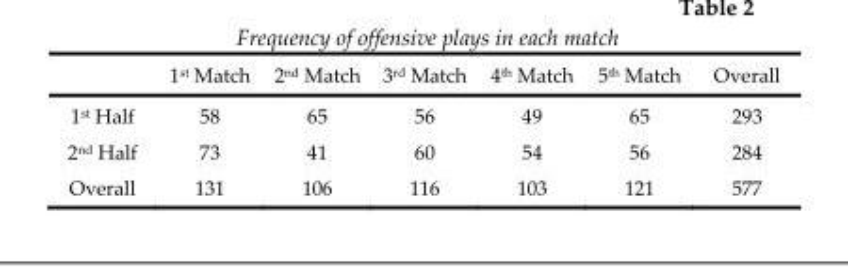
<table><thead><tr><td></td><td>1<sup>st</sup> Match</td><td>2<sup>nd</sup> Match</td><td>3<sup>rd</sup> Match</td><td>4<sup>th</sup> Match</td><td>5<sup>th</sup> Match</td><td>Overall</td></tr></thead><tbody><tr><td>1<sup>st</sup> Half</td><td>58</td><td>65</td><td>56</td><td>49</td><td>65</td><td>293</td></tr><tr><td>2<sup>nd</sup> Half</td><td>73</td><td>41</td><td>60</td><td>54</td><td>56</td><td>284</td></tr><tr><td>Overall</td><td>131</td><td>106</td><td>116</td><td>103</td><td>121</td><td>577</td></tr></tbody></table>